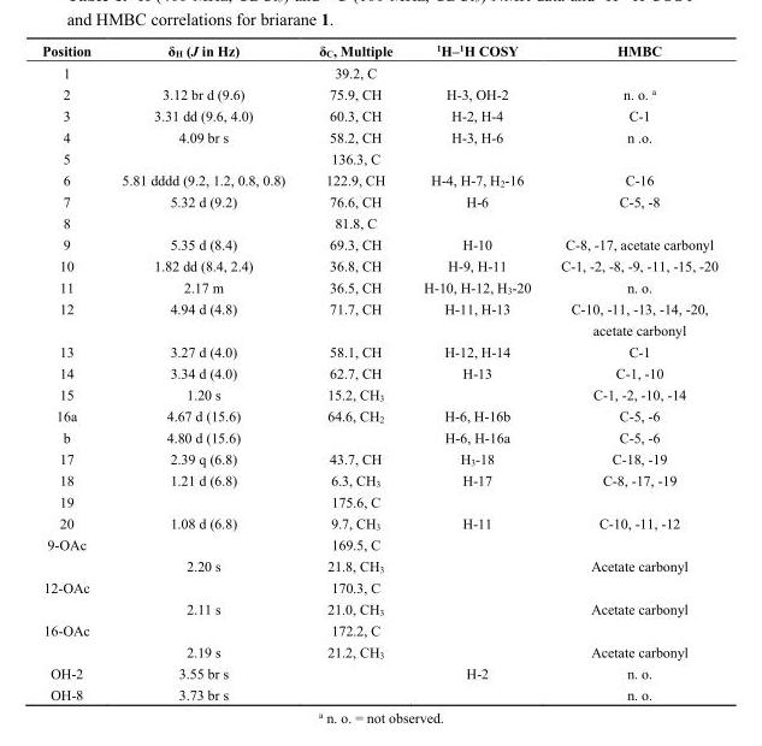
<table><thead><tr><td>Position</td><td>δ<sub>H</sub> (J in Hz)</td><td>δ<sub>C</sub>, Multiple</td><td><sup>1</sup>H–<sup>1</sup>H COSY</td><td>HMBC</td></tr></thead><tbody><tr><td>1</td><td></td><td>39.2, C</td><td></td><td></td></tr><tr><td>2</td><td>3.12 br d (9.6)</td><td>75.9, CH</td><td>H-3, OH-2</td><td>n. o. <sup>a</sup></td></tr><tr><td>3</td><td>3.31 dd (9.6, 4.0)</td><td>60.3, CH</td><td>H-2, H-4</td><td>C-1</td></tr><tr><td>4</td><td>4.09 br s</td><td>58.2, CH</td><td>H-3, H-6</td><td>n .o.</td></tr><tr><td>5</td><td></td><td>136.3, C</td><td></td><td></td></tr><tr><td>6</td><td>5.81 dddd (9.2, 1.2, 0.8, 0.8)</td><td>122.9, CH</td><td>H-4, H-7, H<sub>2</sub>-16</td><td>C-16</td></tr><tr><td>7</td><td>5.32 d (9.2)</td><td>76.6, CH</td><td>H-6</td><td>C-5, -8</td></tr><tr><td>8</td><td></td><td>81.8, C</td><td></td><td></td></tr><tr><td>9</td><td>5.35 d (8.4)</td><td>69.3, CH</td><td>H-10</td><td>C-8, -17, acetate carbonyl</td></tr><tr><td>10</td><td>1.82 dd (8.4, 2.4)</td><td>36.8, CH</td><td>H-9, H-11</td><td>C-1, -2, -8, -9, -11, -15, -20</td></tr><tr><td>11</td><td>2.17 m</td><td>36.5, CH</td><td>H-10, H-12, H<sub>3</sub>-20</td><td>n. o.</td></tr><tr><td rowspan="2">12</td><td>4.94 d (4.8)</td><td>71.7, CH</td><td>H-11, H-13</td><td>C-10, -11, -13, -14, -20,</td></tr><tr><td></td><td></td><td></td><td>acetate carbonyl</td></tr><tr><td>13</td><td>3.27 d (4.0)</td><td>58.1, CH</td><td>H-12, H-14</td><td>C-1</td></tr><tr><td>14</td><td>3.34 d (4.0)</td><td>62.7, CH</td><td>H-13</td><td>C-1, -10</td></tr><tr><td>15</td><td>1.20 s</td><td>15.2, CH<sub>3</sub></td><td></td><td>C-1, -2, -10, -14</td></tr><tr><td>16a</td><td>4.67 d (15.6)</td><td>64.6, CH<sub>2</sub></td><td>H-6, H-16b</td><td>C-5, -6</td></tr><tr><td>b</td><td>4.80 d (15.6)</td><td></td><td>H-6, H-16a</td><td>C-5, -6</td></tr><tr><td>17</td><td>2.39 q (6.8)</td><td>43.7, CH</td><td>H<sub>3</sub>-18</td><td>C-18, -19</td></tr><tr><td>18</td><td>1.21 d (6.8)</td><td>6.3, CH<sub>3</sub></td><td>H-17</td><td>C-8, -17, -19</td></tr><tr><td>19</td><td></td><td>175.6, C</td><td></td><td></td></tr><tr><td>20</td><td>1.08 d (6.8)</td><td>9.7, CH<sub>3</sub></td><td>H-11</td><td>C-10, -11, -12</td></tr><tr><td rowspan="2">9-OAc</td><td></td><td>169.5, C</td><td></td><td></td></tr><tr><td>2.20 s</td><td>21.8, CH<sub>3</sub></td><td></td><td>Acetate carbonyl</td></tr><tr><td rowspan="2">12-OAc</td><td></td><td>170.3, C</td><td></td><td></td></tr><tr><td>2.11 s</td><td>21.0, CH<sub>3</sub></td><td></td><td>Acetate carbonyl</td></tr><tr><td rowspan="2">16-OAc</td><td></td><td>172.2, C</td><td></td><td></td></tr><tr><td>2.19 s</td><td>21.2, CH<sub>3</sub></td><td></td><td>Acetate carbonyl</td></tr><tr><td>OH-2</td><td>3.55 br s</td><td></td><td>H-2</td><td>n. o.</td></tr><tr><td>OH-8</td><td>3.73 br s</td><td></td><td></td><td>n. o.</td></tr></tbody></table>